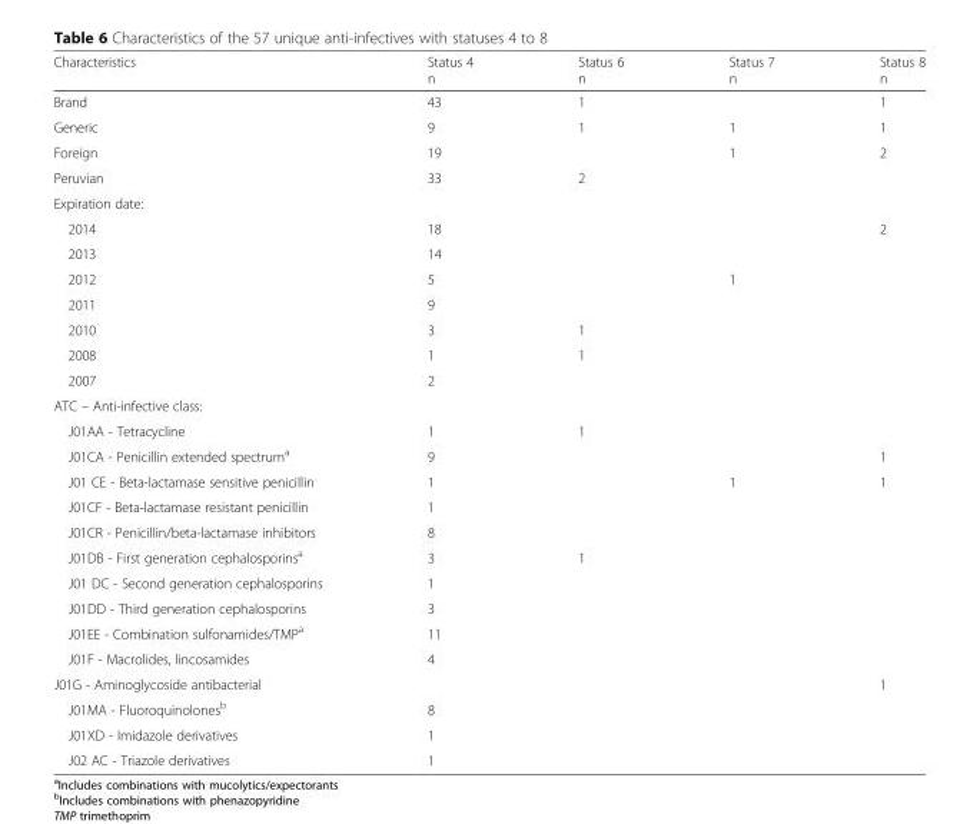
<table><thead><tr><td>Characteristics</td><td>Status 4 n</td><td>Status 6 n</td><td>Status 7 n</td><td>Status 8 n</td></tr></thead><tbody><tr><td>Brand</td><td>43</td><td>1</td><td></td><td>1</td></tr><tr><td>Generic</td><td>9</td><td>1</td><td>1</td><td>1</td></tr><tr><td>Foreign</td><td>19</td><td></td><td>1</td><td>2</td></tr><tr><td>Peruvian</td><td>33</td><td>2</td><td></td><td></td></tr><tr><td colspan="5">Expiration date:</td></tr><tr><td>2014</td><td>18</td><td></td><td></td><td>2</td></tr><tr><td>2013</td><td>14</td><td></td><td></td><td></td></tr><tr><td>2012</td><td>5</td><td></td><td>1</td><td></td></tr><tr><td>2011</td><td>9</td><td></td><td></td><td></td></tr><tr><td>2010</td><td>3</td><td>1</td><td></td><td></td></tr><tr><td>2008</td><td>1</td><td>1</td><td></td><td></td></tr><tr><td>2007</td><td>2</td><td></td><td></td><td></td></tr><tr><td colspan="5">ATC – Anti-infective class:</td></tr><tr><td>J01AA - Tetracycline</td><td>1</td><td>1</td><td></td><td></td></tr><tr><td>J01CA - Penicillin extended spectrum<sup>a</sup></td><td>9</td><td></td><td></td><td>1</td></tr><tr><td>J01 CE - Beta-lactamase sensitive penicillin</td><td>1</td><td></td><td>1</td><td>1</td></tr><tr><td>J01CF - Beta-lactamase resistant penicillin</td><td>1</td><td></td><td></td><td></td></tr><tr><td>J01CR - Penicillin/beta-lactamase inhibitors</td><td>8</td><td></td><td></td><td></td></tr><tr><td>J01DB - First generation cephalosporins<sup>a</sup></td><td>3</td><td>1</td><td></td><td></td></tr><tr><td>J01 DC - Second generation cephalosporins</td><td>1</td><td></td><td></td><td></td></tr><tr><td>J01DD - Third generation cephalosporins</td><td>3</td><td></td><td></td><td></td></tr><tr><td>J01EE - Combination sulfonamides/TMP<sup>a</sup></td><td>11</td><td></td><td></td><td></td></tr><tr><td>J01F - Macrolides, lincosamides</td><td>4</td><td></td><td></td><td></td></tr><tr><td>J01G - Aminoglycoside antibacterial</td><td></td><td></td><td></td><td>1</td></tr><tr><td>J01MA - Fluoroquinolones<sup>b</sup></td><td>8</td><td></td><td></td><td></td></tr><tr><td>J01XD - Imidazole derivatives</td><td>1</td><td></td><td></td><td></td></tr><tr><td>J02 AC - Triazole derivatives</td><td>1</td><td></td><td></td><td></td></tr></tbody></table>